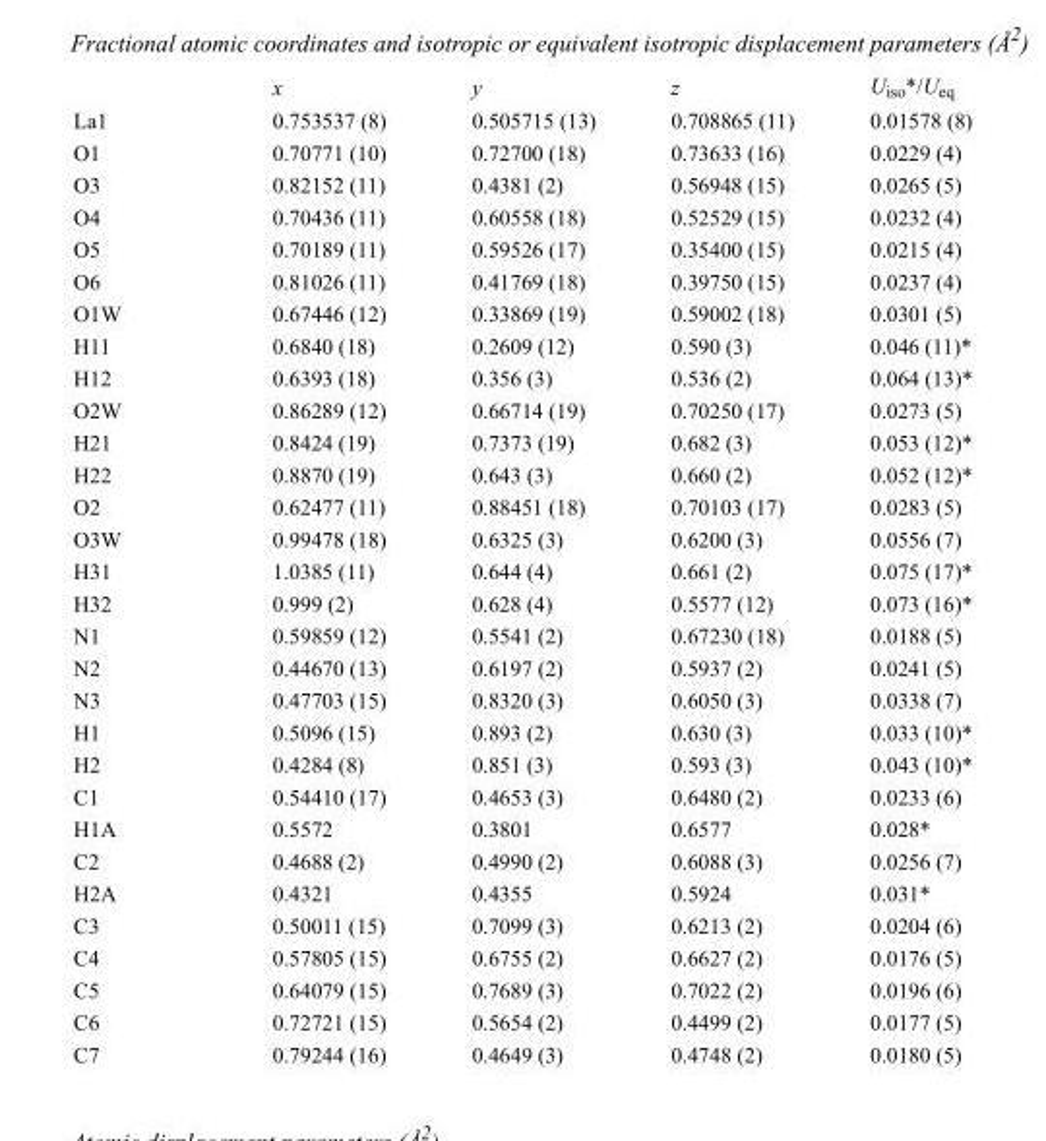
<table><thead><tr><td></td><td>x</td><td>y</td><td>z</td><td>U<sub>iso</sub>*/U<sub>eq</sub></td></tr></thead><tbody><tr><td>La1</td><td>0.753537 (8)</td><td>0.505715 (13)</td><td>0.708865 (11)</td><td>0.01578 (8)</td></tr><tr><td>O1</td><td>0.70771 (10)</td><td>0.72700 (18)</td><td>0.73633 (16)</td><td>0.0229 (4)</td></tr><tr><td>O3</td><td>0.82152 (11)</td><td>0.4381 (2)</td><td>0.56948 (15)</td><td>0.0265 (5)</td></tr><tr><td>O4</td><td>0.70436 (11)</td><td>0.60558 (18)</td><td>0.52529 (15)</td><td>0.0232 (4)</td></tr><tr><td>O5</td><td>0.70189 (11)</td><td>0.59526 (17)</td><td>0.35400 (15)</td><td>0.0215 (4)</td></tr><tr><td>O6</td><td>0.81026 (11)</td><td>0.41769 (18)</td><td>0.39750 (15)</td><td>0.0237 (4)</td></tr><tr><td>O1W</td><td>0.67446 (12)</td><td>0.33869 (19)</td><td>0.59002 (18)</td><td>0.0301 (5)</td></tr><tr><td>H11</td><td>0.6840 (18)</td><td>0.2609 (12)</td><td>0.590 (3)</td><td>0.046 (11)*</td></tr><tr><td>H12</td><td>0.6393 (18)</td><td>0.356 (3)</td><td>0.536 (2)</td><td>0.064 (13)*</td></tr><tr><td>O2W</td><td>0.86289 (12)</td><td>0.66714 (19)</td><td>0.70250 (17)</td><td>0.0273 (5)</td></tr><tr><td>H21</td><td>0.8424 (19)</td><td>0.7373 (19)</td><td>0.682 (3)</td><td>0.053 (12)*</td></tr><tr><td>H22</td><td>0.8870 (19)</td><td>0.643 (3)</td><td>0.660 (2)</td><td>0.052 (12)*</td></tr><tr><td>O2</td><td>0.62477 (11)</td><td>0.88451 (18)</td><td>0.70103 (17)</td><td>0.0283 (5)</td></tr><tr><td>O3W</td><td>0.99478 (18)</td><td>0.6325 (3)</td><td>0.6200 (3)</td><td>0.0556 (7)</td></tr><tr><td>H31</td><td>1.0385 (11)</td><td>0.644 (4)</td><td>0.661 (2)</td><td>0.075 (17)*</td></tr><tr><td>H32</td><td>0.999 (2)</td><td>0.628 (4)</td><td>0.5577 (12)</td><td>0.073 (16)*</td></tr><tr><td>N1</td><td>0.59859 (12)</td><td>0.5541 (2)</td><td>0.67230 (18)</td><td>0.0188 (5)</td></tr><tr><td>N2</td><td>0.44670 (13)</td><td>0.6197 (2)</td><td>0.5937 (2)</td><td>0.0241 (5)</td></tr><tr><td>N3</td><td>0.47703 (15)</td><td>0.8320 (3)</td><td>0.6050 (3)</td><td>0.0338 (7)</td></tr><tr><td>H1</td><td>0.5096 (15)</td><td>0.893 (2)</td><td>0.630 (3)</td><td>0.033 (10)*</td></tr><tr><td>H2</td><td>0.4284 (8)</td><td>0.851 (3)</td><td>0.593 (3)</td><td>0.043 (10)*</td></tr><tr><td>C1</td><td>0.54410 (17)</td><td>0.4653 (3)</td><td>0.6480 (2)</td><td>0.0233 (6)</td></tr><tr><td>H1A</td><td>0.5572</td><td>0.3801</td><td>0.6577</td><td>0.028*</td></tr><tr><td>C2</td><td>0.4688 (2)</td><td>0.4990 (2)</td><td>0.6088 (3)</td><td>0.0256 (7)</td></tr><tr><td>H2A</td><td>0.4321</td><td>0.4355</td><td>0.5924</td><td>0.031*</td></tr><tr><td>C3</td><td>0.50011 (15)</td><td>0.7099 (3)</td><td>0.6213 (2)</td><td>0.0204 (6)</td></tr><tr><td>C4</td><td>0.57805 (15)</td><td>0.6755 (2)</td><td>0.6627 (2)</td><td>0.0176 (5)</td></tr><tr><td>C5</td><td>0.64079 (15)</td><td>0.7689 (3)</td><td>0.7022 (2)</td><td>0.0196 (6)</td></tr><tr><td>C6</td><td>0.72721 (15)</td><td>0.5654 (2)</td><td>0.4499 (2)</td><td>0.0177 (5)</td></tr><tr><td>C7</td><td>0.79244 (16)</td><td>0.4649 (3)</td><td>0.4748 (2)</td><td>0.0180 (5)</td></tr></tbody></table>